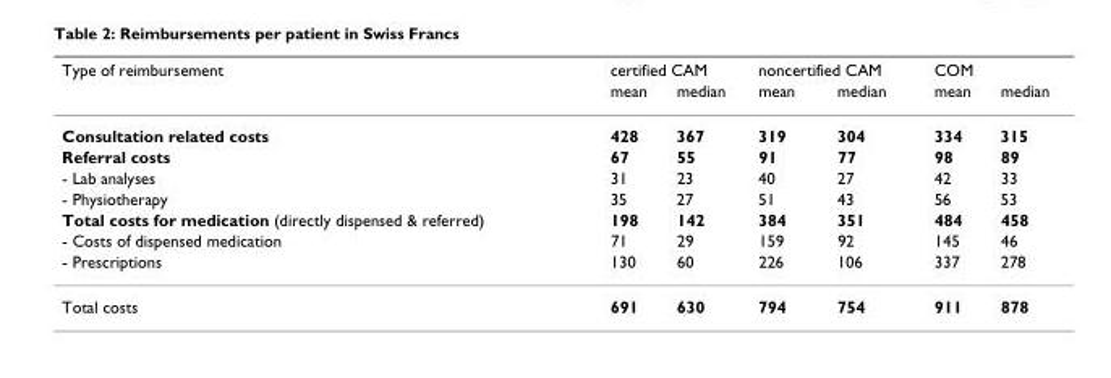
<table><thead><tr><td rowspan="2">Type of reimbursement</td><td colspan="2">certified CAM</td><td colspan="2">noncertified CAM</td><td colspan="2">COM</td></tr><tr><td>mean</td><td>median</td><td>mean</td><td>median</td><td>mean</td><td>median</td></tr></thead><tbody><tr><td>Consultation related costs</td><td>428</td><td>367</td><td>319</td><td>304</td><td>334</td><td>315</td></tr><tr><td>Referral costs</td><td>67</td><td>55</td><td>91</td><td>77</td><td>98</td><td>89</td></tr><tr><td>- Lab analyses</td><td>31</td><td>23</td><td>40</td><td>27</td><td>42</td><td>33</td></tr><tr><td>- Physiotherapy</td><td>35</td><td>27</td><td>51</td><td>43</td><td>56</td><td>53</td></tr><tr><td>Total costs for medication (directly dispensed &amp; referred)</td><td>198</td><td>142</td><td>384</td><td>351</td><td>484</td><td>458</td></tr><tr><td>- Costs of dispensed medication</td><td>71</td><td>29</td><td>159</td><td>92</td><td>145</td><td>46</td></tr><tr><td>- Prescriptions</td><td>130</td><td>60</td><td>226</td><td>106</td><td>337</td><td>278</td></tr><tr><td>Total costs</td><td>691</td><td>630</td><td>794</td><td>754</td><td>911</td><td>878</td></tr></tbody></table>